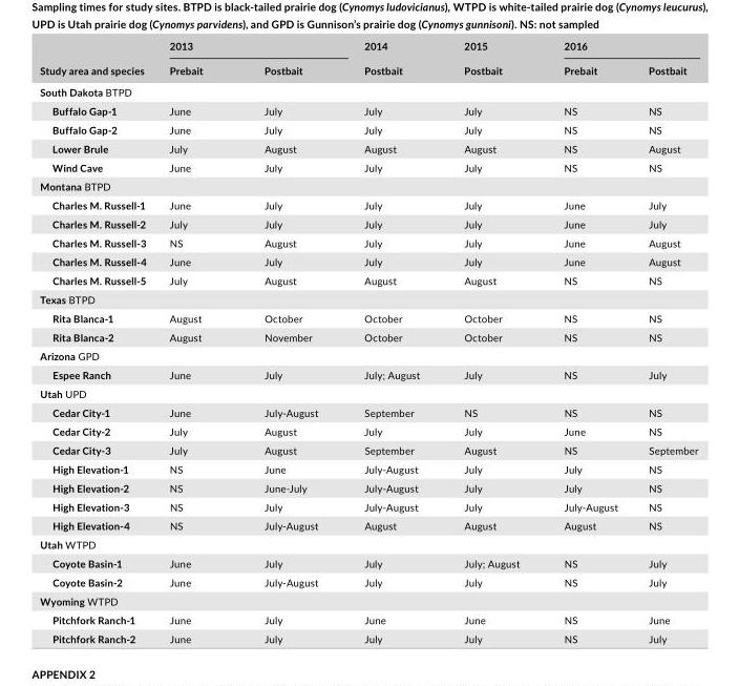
<table><thead><tr><td rowspan="2">Study area and species</td><td colspan="2">2013</td><td rowspan="2">2014 Postbait</td><td rowspan="2">2015 Postbait</td><td colspan="2">2016</td></tr><tr><td>Prebait</td><td>Postbait</td><td>Prebait</td><td>Postbait</td></tr></thead><tbody><tr><td colspan="7">South Dakota BTPD</td></tr><tr><td>Buffalo Gap-1</td><td>June</td><td>July</td><td>July</td><td>July</td><td>NS</td><td>NS</td></tr><tr><td>Buffalo Gap-2</td><td>June</td><td>July</td><td>July</td><td>July</td><td>NS</td><td>NS</td></tr><tr><td>Lower Brule</td><td>July</td><td>August</td><td>August</td><td>August</td><td>NS</td><td>August</td></tr><tr><td>Wind Cave</td><td>June</td><td>July</td><td>July</td><td>July</td><td>NS</td><td>NS</td></tr><tr><td colspan="7">Montana BTPD</td></tr><tr><td>Charles M. Russell-1</td><td>June</td><td>July</td><td>July</td><td>July</td><td>June</td><td>July</td></tr><tr><td>Charles M. Russell-2</td><td>July</td><td>July</td><td>July</td><td>July</td><td>June</td><td>July</td></tr><tr><td>Charles M. Russell-3</td><td>NS</td><td>August</td><td>July</td><td>July</td><td>June</td><td>August</td></tr><tr><td>Charles M. Russell-4</td><td>June</td><td>July</td><td>July</td><td>July</td><td>June</td><td>August</td></tr><tr><td>Charles M. Russell-5</td><td>July</td><td>August</td><td>August</td><td>August</td><td>NS</td><td>NS</td></tr><tr><td colspan="7">Texas BTPD</td></tr><tr><td>Rita Blanca-1</td><td>August</td><td>October</td><td>October</td><td>October</td><td>NS</td><td>NS</td></tr><tr><td>Rita Blanca-2</td><td>August</td><td>November</td><td>October</td><td>October</td><td>NS</td><td>NS</td></tr><tr><td colspan="7">Arizona GPD</td></tr><tr><td>Espee Ranch</td><td>June</td><td>July</td><td>July; August</td><td>July</td><td>NS</td><td>July</td></tr><tr><td colspan="7">Utah UPD</td></tr><tr><td>Cedar City-1</td><td>June</td><td>July- August</td><td>September</td><td>NS</td><td>NS</td><td>NS</td></tr><tr><td>Cedar City-2</td><td>July</td><td>August</td><td>July</td><td>July</td><td>June</td><td>NS</td></tr><tr><td>Cedar City-3</td><td>July</td><td>August</td><td>September</td><td>August</td><td>NS</td><td>September</td></tr><tr><td>High Elevation-1</td><td>NS</td><td>June</td><td>July- August</td><td>July</td><td>July</td><td>NS</td></tr><tr><td>High Elevation-2</td><td>NS</td><td>June- July</td><td>July- August</td><td>July</td><td>July</td><td>NS</td></tr><tr><td>High Elevation-3</td><td>NS</td><td>July</td><td>July- August</td><td>July</td><td>July- August</td><td>NS</td></tr><tr><td>High Elevation-4</td><td>NS</td><td>July- August</td><td>August</td><td>August</td><td>August</td><td>NS</td></tr><tr><td colspan="7">Utah WTPD</td></tr><tr><td>Coyote Basin-1</td><td>June</td><td>July</td><td>July</td><td>July; August</td><td>NS</td><td>July</td></tr><tr><td>Coyote Basin-2</td><td>June</td><td>July- August</td><td>July</td><td>July</td><td>NS</td><td>July</td></tr><tr><td colspan="7">Wyoming WTPD</td></tr><tr><td>Pitchfork Ranch-1</td><td>June</td><td>July</td><td>June</td><td>June</td><td>NS</td><td>June</td></tr><tr><td>Pitchfork Ranch-2</td><td>June</td><td>July</td><td>July</td><td>July</td><td>NS</td><td>July</td></tr></tbody></table>